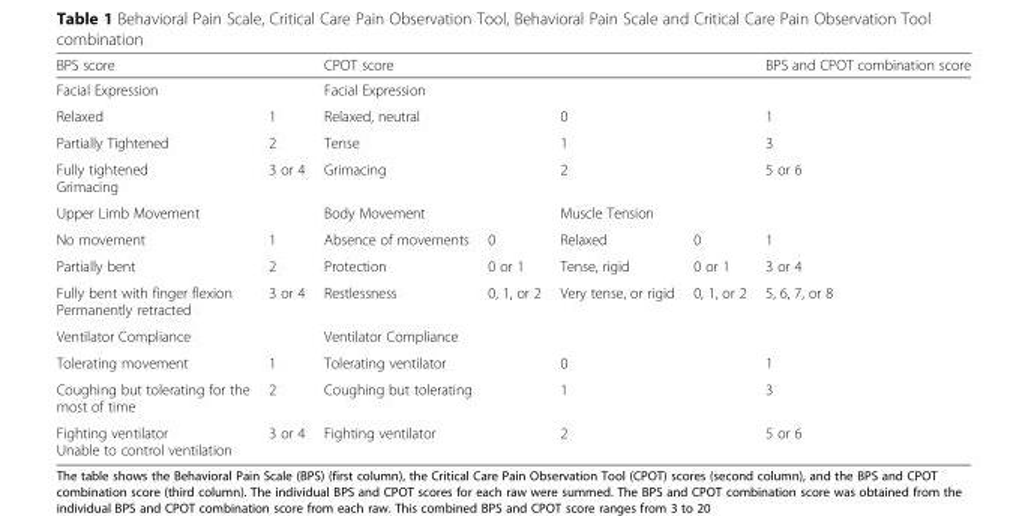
<table><thead><tr><td colspan="2">BPS score</td><td colspan="4">CPOT score</td><td>BPS and CPOT combination score</td></tr></thead><tbody><tr><td colspan="2">Facial Expression</td><td colspan="5">Facial Expression</td></tr><tr><td>Relaxed</td><td>1</td><td colspan="2">Relaxed, neutral</td><td colspan="2">0</td><td>1</td></tr><tr><td>Partially Tightened</td><td>2</td><td colspan="2">Tense</td><td colspan="2">1</td><td>3</td></tr><tr><td>Fully tightened Grimacing</td><td>3 or 4</td><td colspan="2">Grimacing</td><td colspan="2">2</td><td>5 or 6</td></tr><tr><td colspan="2">Upper Limb Movement</td><td colspan="2">Body Movement</td><td colspan="3">Muscle Tension</td></tr><tr><td>No movement</td><td>1</td><td>Absence of movements</td><td>0</td><td>Relaxed</td><td>0</td><td>1</td></tr><tr><td>Partially bent</td><td>2</td><td>Protection</td><td>0 or 1</td><td>Tense, rigid</td><td>0 or 1</td><td>3 or 4</td></tr><tr><td>Fully bent with finger flexion Permanently retracted</td><td>3 or 4</td><td>Restlessness</td><td>0, 1, or 2</td><td>Very tense, or rigid</td><td>0, 1, or 2</td><td>5, 6, 7, or 8</td></tr><tr><td colspan="2">Ventilator Compliance</td><td colspan="5">Ventilator Compliance</td></tr><tr><td>Tolerating movement</td><td>1</td><td colspan="2">Tolerating ventilator</td><td colspan="2">0</td><td>1</td></tr><tr><td>Coughing but tolerating for the most of time</td><td>2</td><td colspan="2">Coughing but tolerating</td><td colspan="2">1</td><td>3</td></tr><tr><td>Fighting ventilator Unable to control ventilation</td><td>3 or 4</td><td colspan="2">Fighting ventilator</td><td colspan="2">2</td><td>5 or 6</td></tr></tbody></table>